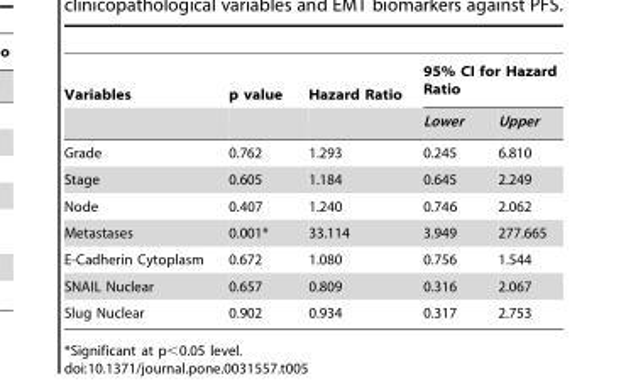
<table><thead><tr><td rowspan="2">Variables</td><td rowspan="2">p value</td><td rowspan="2">Hazard Ratio</td><td colspan="2">95% CI for Hazard Ratio</td></tr><tr><td>Lower</td><td>Upper</td></tr></thead><tbody><tr><td>Grade</td><td>0.762</td><td>1.293</td><td>0.245</td><td>6.810</td></tr><tr><td>Stage</td><td>0.605</td><td>1.184</td><td>0.645</td><td>2.249</td></tr><tr><td>Node</td><td>0.407</td><td>1.240</td><td>0.746</td><td>2.062</td></tr><tr><td>Metastases</td><td>0.001*</td><td>33.114</td><td>3.949</td><td>277.665</td></tr><tr><td>E-Cadherin Cytoplasm</td><td>0.672</td><td>1.080</td><td>0.756</td><td>1.544</td></tr><tr><td>SNAIL Nuclear</td><td>0.657</td><td>0.809</td><td>0.316</td><td>2.067</td></tr><tr><td>Slug Nuclear</td><td>0.902</td><td>0.934</td><td>0.317</td><td>2.753</td></tr></tbody></table>